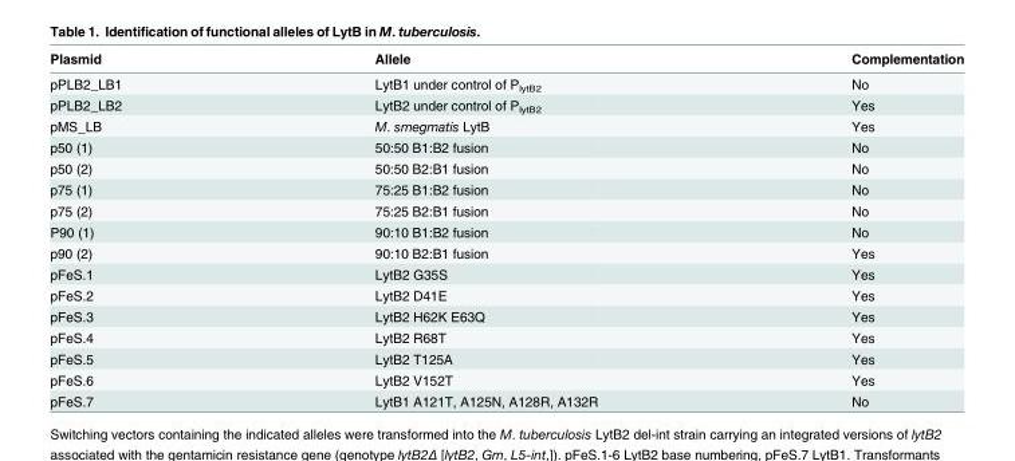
<table><thead><tr><td>Plasmid</td><td>Allele</td><td>Complementation</td></tr></thead><tbody><tr><td>pPLB2_LB1</td><td>LytB1 under control of P<sub>lytB2</sub></td><td>No</td></tr><tr><td>pPLB2_LB2</td><td>LytB2 under control of P<sub>lytB2</sub></td><td>Yes</td></tr><tr><td>pMS_LB</td><td>M. smegmatis LytB</td><td>Yes</td></tr><tr><td>p50 (1)</td><td>50:50 B1:B2 fusion</td><td>No</td></tr><tr><td>p50 (2)</td><td>50:50 B2:B1 fusion</td><td>No</td></tr><tr><td>p75 (1)</td><td>75:25 B1:B2 fusion</td><td>No</td></tr><tr><td>p75 (2)</td><td>75:25 B2:B1 fusion</td><td>No</td></tr><tr><td>P90 (1)</td><td>90:10 B1:B2 fusion</td><td>No</td></tr><tr><td>p90 (2)</td><td>90:10 B2:B1 fusion</td><td>Yes</td></tr><tr><td>pFeS.1</td><td>LytB2 G35S</td><td>Yes</td></tr><tr><td>pFeS.2</td><td>LytB2 D41E</td><td>Yes</td></tr><tr><td>pFeS.3</td><td>LytB2 H62K E63Q</td><td>Yes</td></tr><tr><td>pFeS.4</td><td>LytB2 R68T</td><td>Yes</td></tr><tr><td>pFeS.5</td><td>LytB2 T125A</td><td>Yes</td></tr><tr><td>pFeS.6</td><td>LytB2 V152T</td><td>Yes</td></tr><tr><td>pFeS.7</td><td>LytB1 A121T, A125N, A128R, A132R</td><td>No</td></tr></tbody></table>